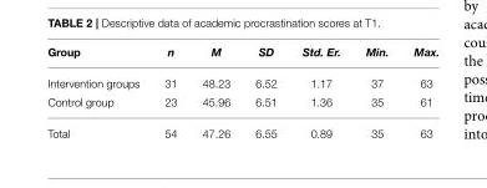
<table><thead><tr><td>Group</td><td>n</td><td>M</td><td>SD</td><td>Std. Er.</td><td>Min.</td><td>Max.</td></tr></thead><tbody><tr><td>Intervention groups</td><td>31</td><td>48.23</td><td>6.52</td><td>1.17</td><td>37</td><td>63</td></tr><tr><td>Control group</td><td>23</td><td>45.96</td><td>6.51</td><td>1.36</td><td>35</td><td>61</td></tr><tr><td>Total</td><td>54</td><td>47.26</td><td>6.55</td><td>0.89</td><td>35</td><td>63</td></tr></tbody></table>